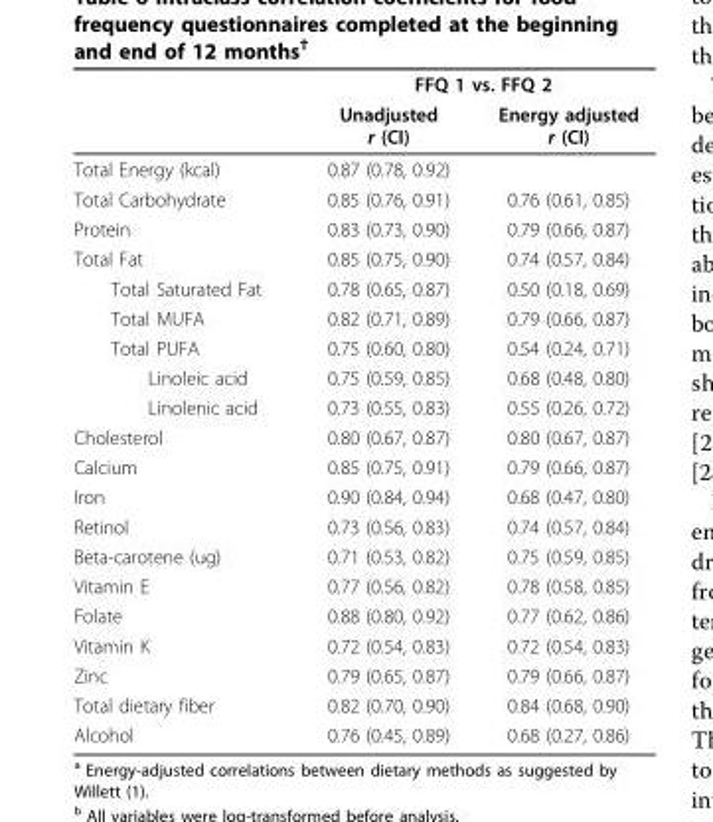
<table><thead><tr><td rowspan="2"></td><td colspan="2">FFQ 1 vs. FFQ 2</td></tr><tr><td>Unadjusted r (CI)</td><td>Energy adjusted r (CI)</td></tr></thead><tbody><tr><td>Total Energy (kcal)</td><td>0.87 (0.78, 0.92)</td><td></td></tr><tr><td>Total Carbohydrate</td><td>0.85 (0.76, 0.91)</td><td>0.76 (0.61, 0.85)</td></tr><tr><td>Protein</td><td>0.83 (0.73, 0.90)</td><td>0.79 (0.66, 0.87)</td></tr><tr><td>Total Fat</td><td>0.85 (0.75, 0.90)</td><td>0.74 (0.57, 0.84)</td></tr><tr><td>Total Saturated Fat</td><td>0.78 (0.65, 0.87)</td><td>0.50 (0.18, 0.69)</td></tr><tr><td>Total MUFA</td><td>0.82 (0.71, 0.89)</td><td>0.79 (0.66, 0.87)</td></tr><tr><td>Total PUFA</td><td>0.75 (0.60, 0.80)</td><td>0.54 (0.24, 0.71)</td></tr><tr><td>Linoleic acid</td><td>0.75 (0.59, 0.85)</td><td>0.68 (0.48, 0.80)</td></tr><tr><td>Linolenic acid</td><td>0.73 (0.55, 0.83)</td><td>0.55 (0.26, 0.72)</td></tr><tr><td>Cholesterol</td><td>0.80 (0.67, 0.87)</td><td>0.80 (0.67, 0.87)</td></tr><tr><td>Calcium</td><td>0.85 (0.75, 0.91)</td><td>0.79 (0.66, 0.87)</td></tr><tr><td>Iron</td><td>0.90 (0.84, 0.94)</td><td>0.68 (0.47, 0.80)</td></tr><tr><td>Retinol</td><td>0.73 (0.56, 0.83)</td><td>0.74 (0.57, 0.84)</td></tr><tr><td>Beta-carotene (ug)</td><td>0.71 (0.53, 0.82)</td><td>0.75 (0.59, 0.85)</td></tr><tr><td>Vitamin E</td><td>0.77 (0.56, 0.82)</td><td>0.78 (0.58, 0.85)</td></tr><tr><td>Folate</td><td>0.88 (0.80, 0.92)</td><td>0.77 (0.62, 0.86)</td></tr><tr><td>Vitamin K</td><td>0.72 (0.54, 0.83)</td><td>0.72 (0.54, 0.83)</td></tr><tr><td>Zinc</td><td>0.79 (0.65, 0.87)</td><td>0.79 (0.66, 0.87)</td></tr><tr><td>Total dietary fiber</td><td>0.82 (0.70, 0.90)</td><td>0.84 (0.68, 0.90)</td></tr><tr><td>Alcohol</td><td>0.76 (0.45, 0.89)</td><td>0.68 (0.27, 0.86)</td></tr></tbody></table>